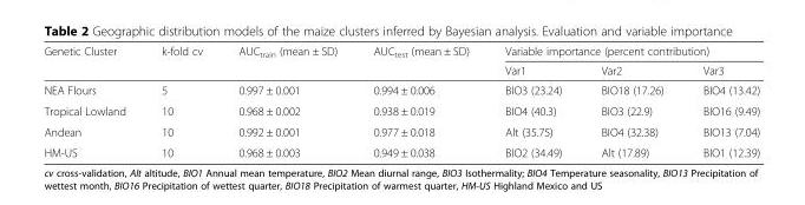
<table><thead><tr><td rowspan="2">Genetic Cluster</td><td rowspan="2">k-fold cv</td><td rowspan="2">AUC<sub>train</sub> (mean ± SD)</td><td rowspan="2">AUC<sub>test</sub> (mean ± SD)</td><td colspan="3">Variable importance (percent contribution)</td></tr><tr><td>Var1</td><td>Var2</td><td>Var3</td></tr></thead><tbody><tr><td>NEA Flours</td><td>5</td><td>0.997 ± 0.001</td><td>0.994 ± 0.006</td><td>BIO3 (23.24)</td><td>BIO18 (17.26)</td><td>BIO4 (13.42)</td></tr><tr><td>Tropical Lowland</td><td>10</td><td>0.968 ± 0.002</td><td>0.938 ± 0.019</td><td>BIO4 (40.3)</td><td>BIO3 (22.9)</td><td>BIO16 (9.49)</td></tr><tr><td>Andean</td><td>10</td><td>0.992 ± 0.001</td><td>0.977 ± 0.018</td><td>Alt (35.75)</td><td>BIO4 (32.38)</td><td>BIO13 (7.04)</td></tr><tr><td>HM-US</td><td>10</td><td>0.968 ± 0.003</td><td>0.949 ± 0.038</td><td>BIO2 (34.49)</td><td>Alt (17.89)</td><td>BIO1 (12.39)</td></tr></tbody></table>